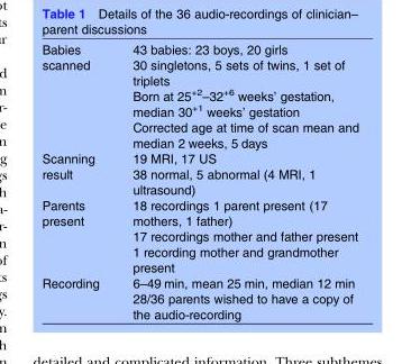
<table><tbody><tr><td>Babies scanned</td><td>43 babies: 23 boys, 20 girls 30 singletons, 5 sets of twins, 1 set of triplets Born at 25<sup>+2</sup>–32<sup>+6</sup> weeks’ gestation, median 30<sup>+1</sup> weeks’ gestation Corrected age at time of scan mean and median 2 weeks, 5 days</td></tr><tr><td>Scanning result</td><td>19 MRI, 17 US 38 normal, 5 abnormal (4 MRI, 1 ultrasound)</td></tr><tr><td>Parents present</td><td>18 recordings 1 parent present (17 mothers, 1 father) 17 recordings mother and father present 1 recording mother and grandmother present</td></tr><tr><td>Recording</td><td>6–49 min, mean 25 min, median 12 min 28/36 parents wished to have a copy of the audio-recording</td></tr></tbody></table>